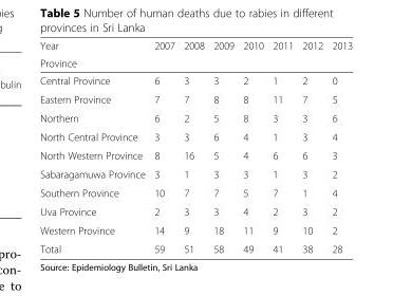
<table><thead><tr><td rowspan="2">Year Province</td><td rowspan="2">2007</td><td rowspan="2">2008</td><td rowspan="2">2009</td><td rowspan="2">2010</td><td rowspan="2">2011</td><td rowspan="2">2012</td><td rowspan="2">2013</td></tr><tr></tr></thead><tbody><tr><td>Central Province</td><td>6</td><td>3</td><td>3</td><td>2</td><td>1</td><td>2</td><td>0</td></tr><tr><td>Eastern Province</td><td>7</td><td>7</td><td>8</td><td>8</td><td>11</td><td>7</td><td>5</td></tr><tr><td>Northern</td><td>6</td><td>2</td><td>5</td><td>8</td><td>3</td><td>3</td><td>6</td></tr><tr><td>North Central Province</td><td>3</td><td>3</td><td>6</td><td>4</td><td>1</td><td>3</td><td>4</td></tr><tr><td>North Western Province</td><td>8</td><td>16</td><td>5</td><td>4</td><td>6</td><td>6</td><td>3</td></tr><tr><td>Sabaragamuwa Province</td><td>3</td><td>1</td><td>3</td><td>3</td><td>1</td><td>3</td><td>2</td></tr><tr><td>Southern Province</td><td>10</td><td>7</td><td>7</td><td>5</td><td>7</td><td>1</td><td>4</td></tr><tr><td>Uva Province</td><td>2</td><td>3</td><td>3</td><td>4</td><td>2</td><td>3</td><td>2</td></tr><tr><td>Western Province</td><td>14</td><td>9</td><td>18</td><td>11</td><td>9</td><td>10</td><td>2</td></tr><tr><td>Total</td><td>59</td><td>51</td><td>58</td><td>49</td><td>41</td><td>38</td><td>28</td></tr></tbody></table>